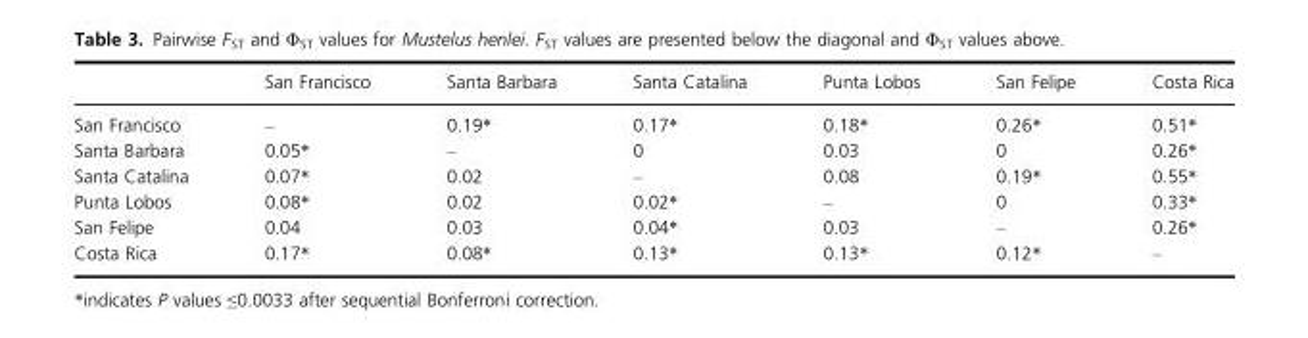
<table><thead><tr><td></td><td>San Francisco</td><td>Santa Barbara</td><td>Santa Catalina</td><td>Punta Lobos</td><td>San Felipe</td><td>Costa Rica</td></tr></thead><tbody><tr><td>San Francisco</td><td>–</td><td>0.19*</td><td>0.17*</td><td>0.18*</td><td>0.26*</td><td>0.51*</td></tr><tr><td>Santa Barbara</td><td>0.05*</td><td>–</td><td>0</td><td>0.03</td><td>0</td><td>0.26*</td></tr><tr><td>Santa Catalina</td><td>0.07*</td><td>0.02</td><td>–</td><td>0.08</td><td>0.19*</td><td>0.55*</td></tr><tr><td>Punta Lobos</td><td>0.08*</td><td>0.02</td><td>0.02*</td><td>–</td><td>0</td><td>0.33*</td></tr><tr><td>San Felipe</td><td>0.04</td><td>0.03</td><td>0.04*</td><td>0.03</td><td>–</td><td>0.26*</td></tr><tr><td>Costa Rica</td><td>0.17*</td><td>0.08*</td><td>0.13*</td><td>0.13*</td><td>0.12*</td><td>–</td></tr></tbody></table>